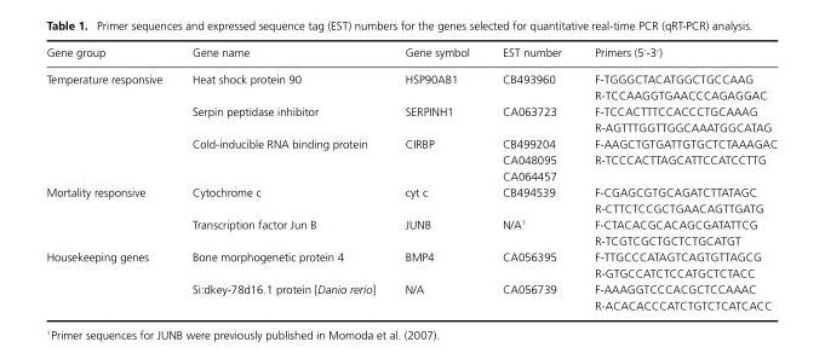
<table><thead><tr><td>Gene group</td><td>Gene name</td><td>Gene symbol</td><td>EST number</td><td>Primers (5′-3′)</td></tr></thead><tbody><tr><td rowspan="7">Temperature responsive</td><td>Heat shock protein 90</td><td>HSP90AB1</td><td>CB493960</td><td>F-TGGGCTACATGGCTGCCAAG</td></tr><tr><td></td><td></td><td></td><td>R-TCCAAGGTGAACCCAGAGGAC</td></tr><tr><td>Serpin peptidase inhibitor</td><td>SERPINH1</td><td>CA063723</td><td>F-TCCACTTTCCACCCTGCAAAG</td></tr><tr><td></td><td></td><td></td><td>R-AGTTTGGTTGGCAAATGGCATAG</td></tr><tr><td>Cold-inducible RNA binding protein</td><td>CIRBP</td><td>CB499204</td><td>F-AAGCTGTGATTGTGCTCTAAAGAC</td></tr><tr><td></td><td></td><td>CA048095</td><td>R-TCCCACTTAGCATTCCATCCTTG</td></tr><tr><td></td><td></td><td>CA064457</td><td></td></tr><tr><td rowspan="4">Mortality responsive</td><td>Cytochrome c</td><td>cyt c</td><td>CB494539</td><td>F-CGAGCGTGCAGATCTTATAGC</td></tr><tr><td></td><td></td><td></td><td>R-CTTCTCCGCTGAACAGTTGATG</td></tr><tr><td>Transcription factor Jun B</td><td>JUNB</td><td>N/A<sup>1</sup></td><td>F-CTACACGCACAGCGATATTCG</td></tr><tr><td></td><td></td><td></td><td>R-TCGTCGCTGCTCTGCATGT</td></tr><tr><td rowspan="4">Housekeeping genes</td><td>Bone morphogenetic protein 4</td><td>BMP4</td><td>CA056395</td><td>F-TTGCCCATAGTCAGTGTTAGCG</td></tr><tr><td></td><td></td><td></td><td>R-GTGCCATCTCCATGCTCTACC</td></tr><tr><td>Si:dkey-78d16.1 protein [Danio rerio]</td><td>N/A</td><td>CA056739</td><td>F-AAAGGTCCCACGCTCCAAAC</td></tr><tr><td></td><td></td><td></td><td>R-ACACACCCATCTGTCTCATCACC</td></tr></tbody></table>